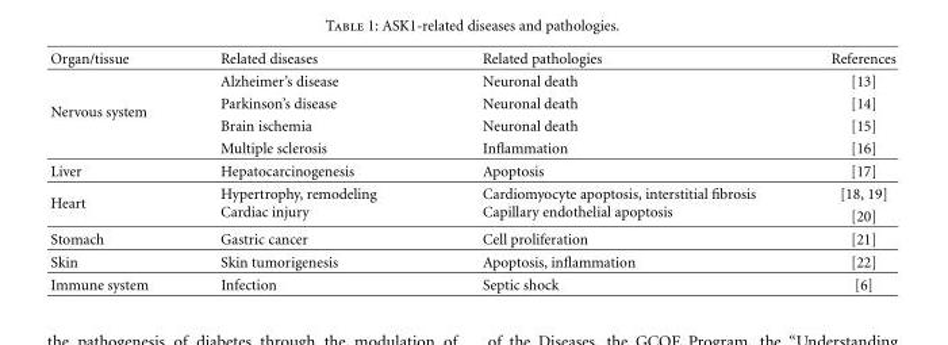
<table><thead><tr><td>Organ/tissue</td><td>Related diseases</td><td>Related pathologies</td><td>References</td></tr></thead><tbody><tr><td rowspan="4">Nervous system</td><td>Alzheimer’s disease</td><td>Neuronal death</td><td>[13]</td></tr><tr><td>Parkinson’s disease</td><td>Neuronal death</td><td>[14]</td></tr><tr><td>Brain ischemia</td><td>Neuronal death</td><td>[15]</td></tr><tr><td>Multiple sclerosis</td><td>Inflammation</td><td>[16]</td></tr><tr><td>Liver</td><td>Hepatocarcinogenesis</td><td>Apoptosis</td><td>[17]</td></tr><tr><td rowspan="2">Heart</td><td rowspan="2">Hypertrophy, remodeling Cardiac injury</td><td rowspan="2">Cardiomyocyte apoptosis, interstitial fibrosis Capillary endothelial apoptosis</td><td>[18, 19]</td></tr><tr><td>[20]</td></tr><tr><td>Stomach</td><td>Gastric cancer</td><td>Cell proliferation</td><td>[21]</td></tr><tr><td>Skin</td><td>Skin tumorigenesis</td><td>Apoptosis, inflammation</td><td>[22]</td></tr><tr><td>Immune system</td><td>Infection</td><td>Septic shock</td><td>[6]</td></tr></tbody></table>